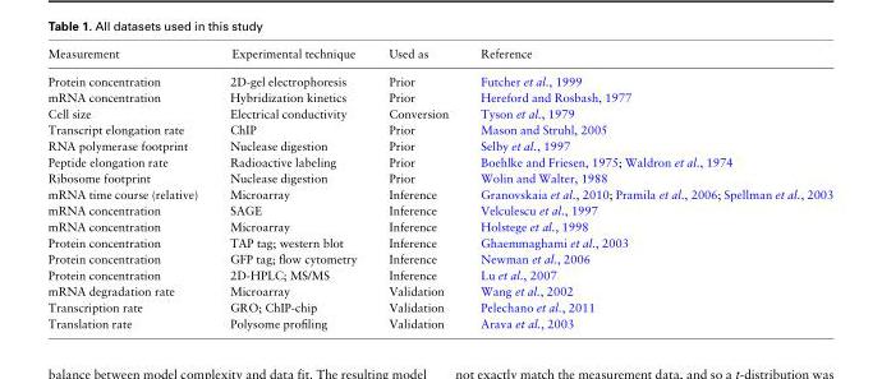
<table><thead><tr><td>Measurement</td><td>Experimental technique</td><td>Used as</td><td>Reference</td></tr></thead><tbody><tr><td>Protein concentration</td><td>2D-gel electrophoresis</td><td>Prior</td><td>Futcher et al., 1999</td></tr><tr><td>mRNA concentration</td><td>Hybridization kinetics</td><td>Prior</td><td>Hereford and Rosbash, 1977</td></tr><tr><td>Cell size</td><td>Electrical conductivity</td><td>Conversion</td><td>Tyson et al., 1979</td></tr><tr><td>Transcript elongation rate</td><td>ChIP</td><td>Prior</td><td>Mason and Struhl, 2005</td></tr><tr><td>RNA polymerase footprint</td><td>Nuclease digestion</td><td>Prior</td><td>Selby et al., 1997</td></tr><tr><td>Peptide elongation rate</td><td>Radioactive labeling</td><td>Prior</td><td>Boehlke and Friesen, 1975; Waldron et al., 1974</td></tr><tr><td>Ribosome footprint</td><td>Nuclease digestion</td><td>Prior</td><td>Wolin and Walter, 1988</td></tr><tr><td>mRNA time course (relative)</td><td>Microarray</td><td>Inference</td><td>Granovskaia et al., 2010; Pramila et al., 2006; Spellman et al., 2003</td></tr><tr><td>mRNA concentration</td><td>SAGE</td><td>Inference</td><td>Velculescu et al., 1997</td></tr><tr><td>mRNA concentration</td><td>Microarray</td><td>Inference</td><td>Holstege et al., 1998</td></tr><tr><td>Protein concentration</td><td>TAP tag; western blot</td><td>Inference</td><td>Ghaemmaghami et al., 2003</td></tr><tr><td>Protein concentration</td><td>GFP tag; flow cytometry</td><td>Inference</td><td>Newman et al., 2006</td></tr><tr><td>Protein concentration</td><td>2D-HPLC; MS/MS</td><td>Inference</td><td>Lu et al., 2007</td></tr><tr><td>mRNA degradation rate</td><td>Microarray</td><td>Validation</td><td>Wang et al., 2002</td></tr><tr><td>Transcription rate</td><td>GRO; ChIP-chip</td><td>Validation</td><td>Pelechano et al., 2011</td></tr><tr><td>Translation rate</td><td>Polysome profiling</td><td>Validation</td><td>Arava et al., 2003</td></tr></tbody></table>